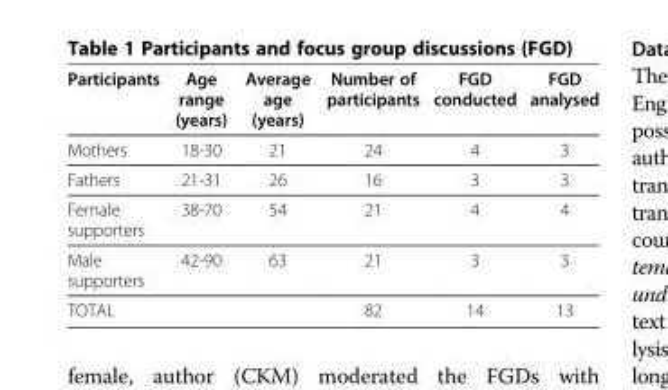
<table><thead><tr><td>Participants</td><td>Age range (years)</td><td>Average age (years)</td><td>Number of participants</td><td>FGD conducted</td><td>FGD analysed</td></tr></thead><tbody><tr><td>Mothers</td><td>18-30</td><td>21</td><td>24</td><td>4</td><td>3</td></tr><tr><td>Fathers</td><td>21-31</td><td>26</td><td>16</td><td>3</td><td>3</td></tr><tr><td>Female supporters</td><td>38-70</td><td>54</td><td>21</td><td>4</td><td>4</td></tr><tr><td>Male supporters</td><td>42-90</td><td>63</td><td>21</td><td>3</td><td>3</td></tr><tr><td>TOTAL</td><td></td><td></td><td>82</td><td>14</td><td>13</td></tr></tbody></table>